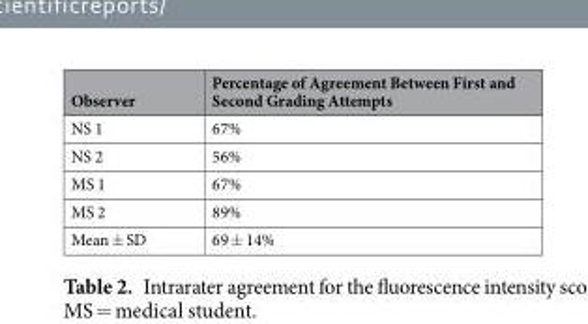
<table><thead><tr><td>Observer</td><td>Percentage of Agreement Between First and Second Grading Attempts</td></tr></thead><tbody><tr><td>NS 1</td><td>67%</td></tr><tr><td>NS 2</td><td>56%</td></tr><tr><td>MS 1</td><td>67%</td></tr><tr><td>MS 2</td><td>89%</td></tr><tr><td>Mean ± SD</td><td>69 ± 14%</td></tr></tbody></table>